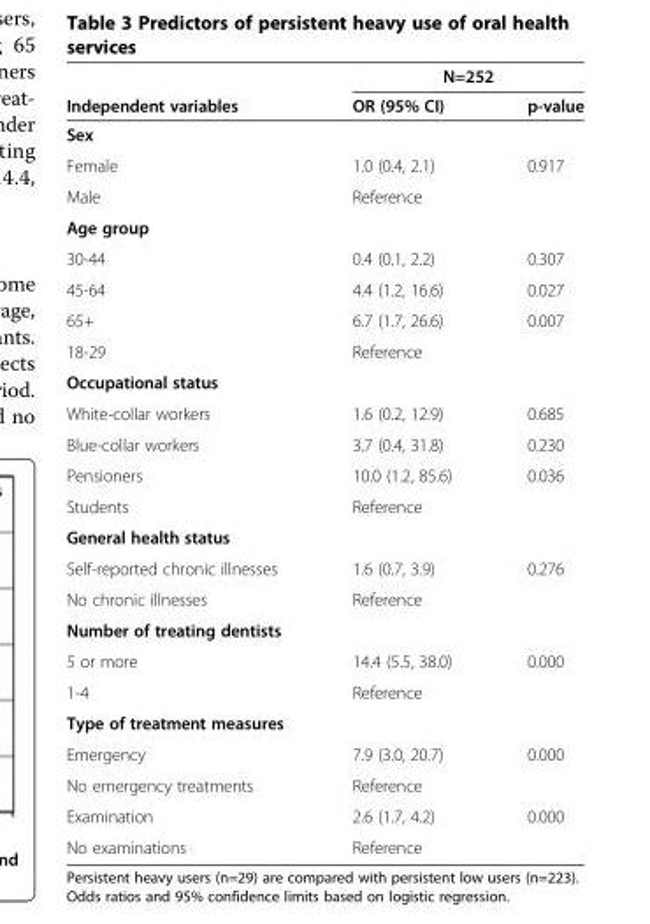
<table><thead><tr><td rowspan="2">Independent variables</td><td colspan="2">N=252</td></tr><tr><td>OR (95% CI)</td><td>p-value</td></tr></thead><tbody><tr><td colspan="3">Sex</td></tr><tr><td>Female</td><td>1.0 (0.4, 2.1)</td><td>0.917</td></tr><tr><td>Male</td><td>Reference</td><td></td></tr><tr><td colspan="3">Age group</td></tr><tr><td>30-44</td><td>0.4 (0.1, 2.2)</td><td>0.307</td></tr><tr><td>45-64</td><td>4.4 (1.2, 16.6)</td><td>0.027</td></tr><tr><td>65+</td><td>6.7 (1.7, 26.6)</td><td>0.007</td></tr><tr><td>18-29</td><td>Reference</td><td></td></tr><tr><td colspan="3">Occupational status</td></tr><tr><td>White-collar workers</td><td>1.6 (0.2, 12.9)</td><td>0.685</td></tr><tr><td>Blue-collar workers</td><td>3.7 (0.4, 31.8)</td><td>0.230</td></tr><tr><td>Pensioners</td><td>10.0 (1.2, 85.6)</td><td>0.036</td></tr><tr><td>Students</td><td>Reference</td><td></td></tr><tr><td colspan="3">General health status</td></tr><tr><td>Self-reported chronic illnesses</td><td>1.6 (0.7, 3.9)</td><td>0.276</td></tr><tr><td>No chronic illnesses</td><td>Reference</td><td></td></tr><tr><td colspan="3">Number of treating dentists</td></tr><tr><td>5 or more</td><td>14.4 (5.5, 38.0)</td><td>0.000</td></tr><tr><td>1-4</td><td>Reference</td><td></td></tr><tr><td colspan="3">Type of treatment measures</td></tr><tr><td>Emergency</td><td>7.9 (3.0, 20.7)</td><td>0.000</td></tr><tr><td>No emergency treatments</td><td>Reference</td><td></td></tr><tr><td>Examination</td><td>2.6 (1.7, 4.2)</td><td>0.000</td></tr><tr><td>No examinations</td><td>Reference</td><td></td></tr></tbody></table>